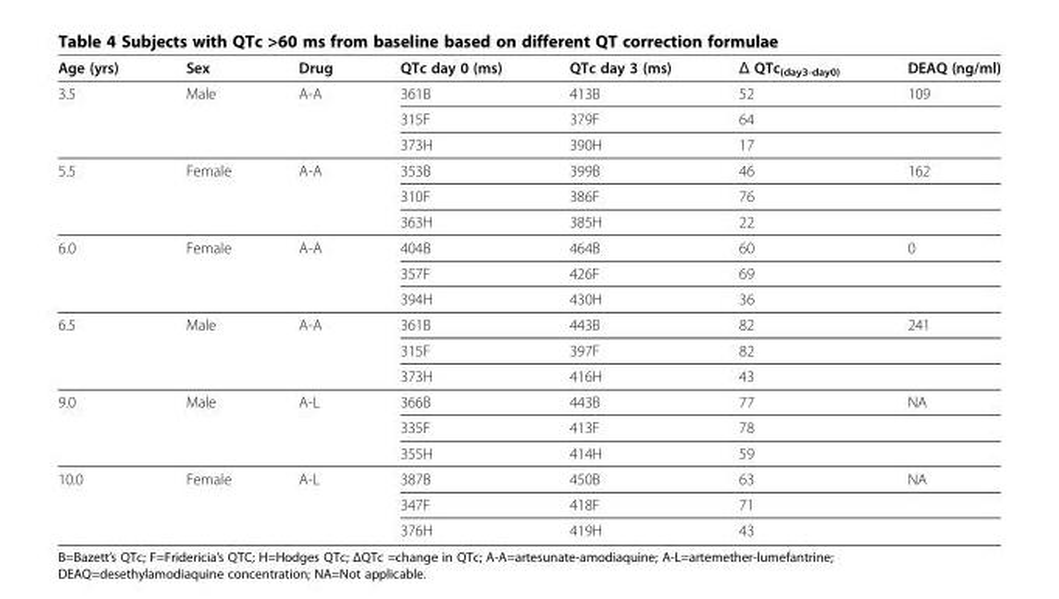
<table><thead><tr><td>Age (yrs)</td><td>Sex</td><td>Drug</td><td>QTc day 0 (ms)</td><td>QTc day 3 (ms)</td><td>Δ QTc<sub>(day3-day0)</sub></td><td>DEAQ (ng/ml)</td></tr></thead><tbody><tr><td rowspan="3">3.5</td><td>Male</td><td>A-A</td><td>361B</td><td>413B</td><td>52</td><td>109</td></tr><tr><td></td><td></td><td>315F</td><td>379F</td><td>64</td><td></td></tr><tr><td></td><td></td><td>373H</td><td>390H</td><td>17</td><td></td></tr><tr><td rowspan="3">5.5</td><td>Female</td><td>A-A</td><td>353B</td><td>399B</td><td>46</td><td>162</td></tr><tr><td></td><td></td><td>310F</td><td>386F</td><td>76</td><td></td></tr><tr><td></td><td></td><td>363H</td><td>385H</td><td>22</td><td></td></tr><tr><td rowspan="3">6.0</td><td>Female</td><td>A-A</td><td>404B</td><td>464B</td><td>60</td><td>0</td></tr><tr><td></td><td></td><td>357F</td><td>426F</td><td>69</td><td></td></tr><tr><td></td><td></td><td>394H</td><td>430H</td><td>36</td><td></td></tr><tr><td rowspan="3">6.5</td><td>Male</td><td>A-A</td><td>361B</td><td>443B</td><td>82</td><td>241</td></tr><tr><td></td><td></td><td>315F</td><td>397F</td><td>82</td><td></td></tr><tr><td></td><td></td><td>373H</td><td>416H</td><td>43</td><td></td></tr><tr><td rowspan="3">9.0</td><td>Male</td><td>A-L</td><td>366B</td><td>443B</td><td>77</td><td>NA</td></tr><tr><td></td><td></td><td>335F</td><td>413F</td><td>78</td><td></td></tr><tr><td></td><td></td><td>355H</td><td>414H</td><td>59</td><td></td></tr><tr><td rowspan="3">10.0</td><td>Female</td><td>A-L</td><td>387B</td><td>450B</td><td>63</td><td>NA</td></tr><tr><td></td><td></td><td>347F</td><td>418F</td><td>71</td><td></td></tr><tr><td></td><td></td><td>376H</td><td>419H</td><td>43</td><td></td></tr></tbody></table>